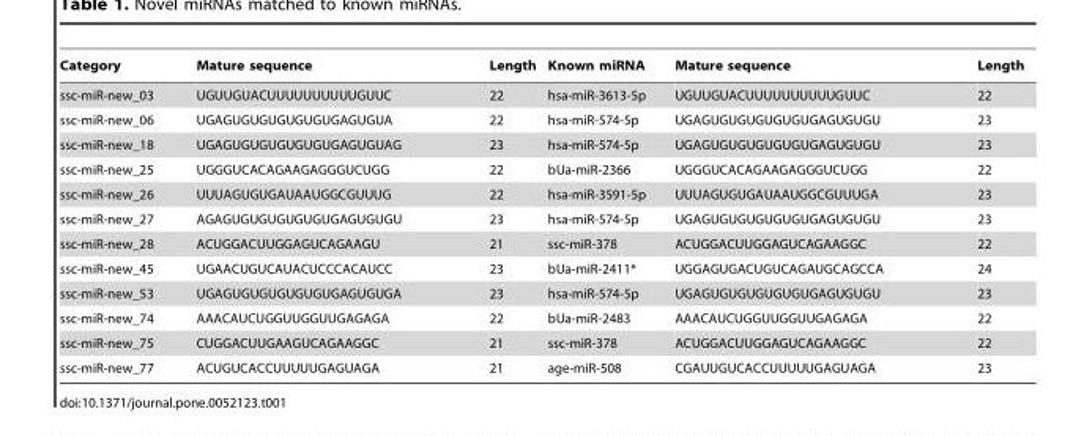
<table><thead><tr><td>Category</td><td>Mature sequence</td><td>Length</td><td>Known miRNA</td><td>Mature sequence</td><td>Length</td></tr></thead><tbody><tr><td>ssc-miR-new_03</td><td>UGUUGUACUUUUUUUUUUGUUC</td><td>22</td><td>hsa-miR-3613-5p</td><td>UGUUGUACUUUUUUUUUUGUUC</td><td>22</td></tr><tr><td>ssc-miR-new_06</td><td>UGAGUGUGUGUGUGUGAGUGUA</td><td>22</td><td>hsa-miR-574-5p</td><td>UGAGUGUGUGUGUGUGAGUGUGU</td><td>23</td></tr><tr><td>ssc-miR-new_18</td><td>UGAGUGUGUGUGUGUGAGUGUAG</td><td>23</td><td>hsa-miR-574-5p</td><td>UGAGUGUGUGUGUGUGAGUGUGU</td><td>23</td></tr><tr><td>ssc-miR-new_25</td><td>UGGGUCACAGAAGAGGGUCUGG</td><td>22</td><td>bUa-miR-2366</td><td>UGGGUCACAGAAGAGGGUCUGG</td><td>22</td></tr><tr><td>ssc-miR-new_26</td><td>UUUAGUGUGAUAAUGGCGUUUG</td><td>22</td><td>hsa-miR-3591-5p</td><td>UUUAGUGUGAUAAUGGCGUUUGA</td><td>23</td></tr><tr><td>ssc-miR-new_27</td><td>AGAGUGUGUGUGUGUGAGUGUGU</td><td>23</td><td>hsa-miR-574-5p</td><td>UGAGUGUGUGUGUGUGAGUGUGU</td><td>23</td></tr><tr><td>ssc-miR-new_28</td><td>ACUGGACUUGGAGUCAGAAGU</td><td>21</td><td>ssc-miR-378</td><td>ACUGGACUUGGAGUCAGAAGGC</td><td>22</td></tr><tr><td>ssc-miR-new_45</td><td>UGAACUGUCAUACUCCCACAUCC</td><td>23</td><td>bUa-miR-2411*</td><td>UGGAGUGACUGUCAGAUGCAGCCA</td><td>24</td></tr><tr><td>ssc-miR-new_53</td><td>UGAGUGUGUGUGUGUGAGUGUGA</td><td>23</td><td>hsa-miR-574-5p</td><td>UGAGUGUGUGUGUGUGAGUGUGU</td><td>23</td></tr><tr><td>ssc-miR-new_74</td><td>AAACAUCUGGUUGGUUGAGAGA</td><td>22</td><td>bUa-miR-2483</td><td>AAACAUCUGGUUGGUUGAGAGA</td><td>22</td></tr><tr><td>ssc-miR-new_75</td><td>CUGGACUUGAAGUCAGAAGGC</td><td>21</td><td>ssc-miR-378</td><td>ACUGGACUUGGAGUCAGAAGGC</td><td>22</td></tr><tr><td>ssc-miR-new_77</td><td>ACUGUCACCUUUUUGAGUAGA</td><td>21</td><td>age-miR-508</td><td>CGAUUGUCACCUUUUUGAGUAGA</td><td>23</td></tr></tbody></table>